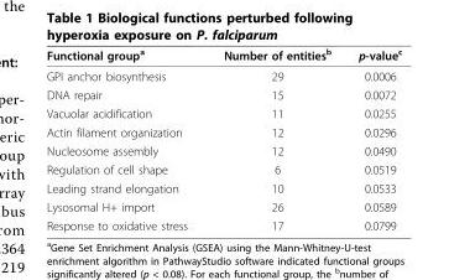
<table><thead><tr><td>Functional group<sup>a</sup></td><td>Number of entities<sup>b</sup></td><td>p-value<sup>c</sup></td></tr></thead><tbody><tr><td>GPI anchor biosynthesis</td><td>29</td><td>0.0006</td></tr><tr><td>DNA repair</td><td>15</td><td>0.0072</td></tr><tr><td>Vacuolar acidification</td><td>11</td><td>0.0255</td></tr><tr><td>Actin filament organization</td><td>12</td><td>0.0296</td></tr><tr><td>Nucleosome assembly</td><td>12</td><td>0.0490</td></tr><tr><td>Regulation of cell shape</td><td>6</td><td>0.0519</td></tr><tr><td>Leading strand elongation</td><td>10</td><td>0.0533</td></tr><tr><td>Lysosomal H+ import</td><td>26</td><td>0.0589</td></tr><tr><td>Response to oxidative stress</td><td>17</td><td>0.0799</td></tr></tbody></table>